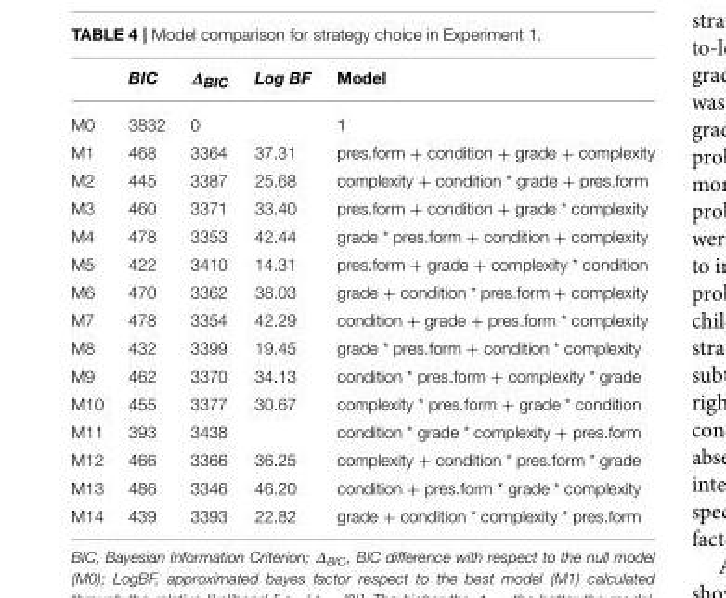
<table><thead><tr><td></td><td>BIC</td><td>∆BIC</td><td>Log BF</td><td>Model</td></tr></thead><tbody><tr><td>M0</td><td>3832</td><td>0</td><td></td><td>1</td></tr><tr><td>M1</td><td>468</td><td>3364</td><td>37.31</td><td>pres.form + condition + grade + complexity</td></tr><tr><td>M2</td><td>445</td><td>3387</td><td>25.68</td><td>complexity + condition * grade + pres.form</td></tr><tr><td>M3</td><td>460</td><td>3371</td><td>33.40</td><td>pres.form + condition + grade * complexity</td></tr><tr><td>M4</td><td>478</td><td>3353</td><td>42.44</td><td>grade * pres.form + condition + complexity</td></tr><tr><td>M5</td><td>422</td><td>3410</td><td>14.31</td><td>pres.form + grade + complexity * condition</td></tr><tr><td>M6</td><td>470</td><td>3362</td><td>38.03</td><td>grade + condition * pres.form + complexity</td></tr><tr><td>M7</td><td>478</td><td>3354</td><td>42.29</td><td>condition + grade + pres.form * complexity</td></tr><tr><td>M8</td><td>432</td><td>3399</td><td>19.45</td><td>grade * pres.form + condition * complexity</td></tr><tr><td>M9</td><td>462</td><td>3370</td><td>34.13</td><td>condition * pres.form + complexity * grade</td></tr><tr><td>M10</td><td>455</td><td>3377</td><td>30.67</td><td>complexity * pres.form + grade * condition</td></tr><tr><td>M11</td><td>393</td><td>3438</td><td></td><td>condition * grade * complexity + pres.form</td></tr><tr><td>M12</td><td>466</td><td>3366</td><td>36.25</td><td>complexity + condition * pres.form * grade</td></tr><tr><td>M13</td><td>486</td><td>3346</td><td>46.20</td><td>condition + pres.form * grade * complexity</td></tr><tr><td>M14</td><td>439</td><td>3393</td><td>22.82</td><td>grade + condition * complexity * pres.form</td></tr></tbody></table>